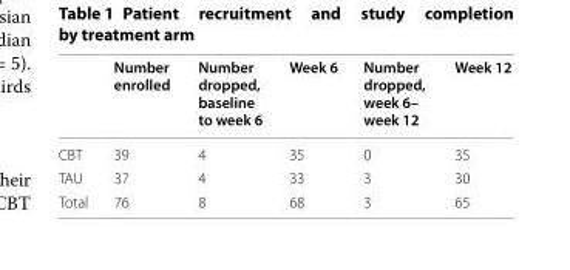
<table><thead><tr><td></td><td>Number enrolled</td><td>Number dropped, baseline to week 6</td><td>Week 6</td><td>Number dropped, week 6– week 12</td><td>Week 12</td></tr></thead><tbody><tr><td>CBT</td><td>39</td><td>4</td><td>35</td><td>0</td><td>35</td></tr><tr><td>TAU</td><td>37</td><td>4</td><td>33</td><td>3</td><td>30</td></tr><tr><td>Total</td><td>76</td><td>8</td><td>68</td><td>3</td><td>65</td></tr></tbody></table>